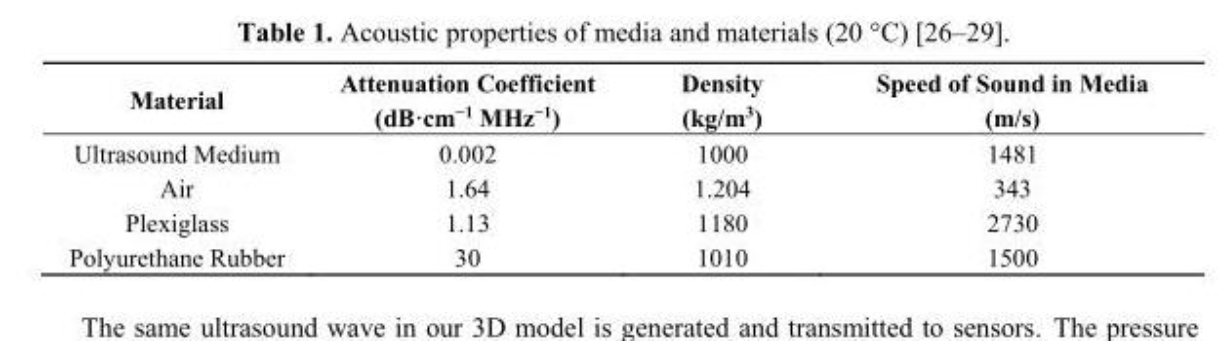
<table><thead><tr><td>Material</td><td>Attenuation Coefficient (dB·cm<sup>−1</sup> MHz<sup>−1</sup>)</td><td>Density (kg/m<sup>3</sup>)</td><td>Speed of Sound in Media (m/s)</td></tr></thead><tbody><tr><td>Ultrasound Medium</td><td>0.002</td><td>1000</td><td>1481</td></tr><tr><td>Air</td><td>1.64</td><td>1.204</td><td>343</td></tr><tr><td>Plexiglass</td><td>1.13</td><td>1180</td><td>2730</td></tr><tr><td>Polyurethane Rubber</td><td>30</td><td>1010</td><td>1500</td></tr></tbody></table>